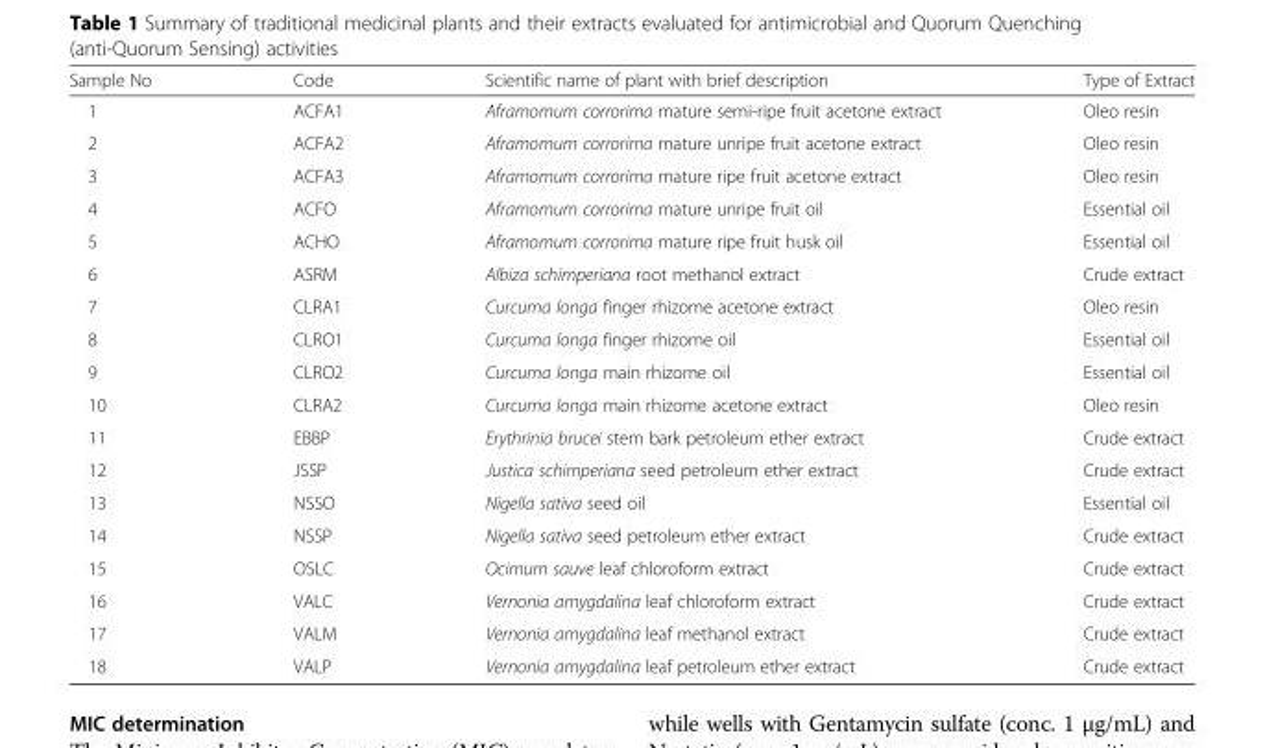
<table><thead><tr><td>Sample No</td><td>Code</td><td>Scientific name of plant with brief description</td><td>Type of Extract</td></tr></thead><tbody><tr><td>1</td><td>ACFA1</td><td>Aframomum corrorima mature semi-ripe fruit acetone extract</td><td>Oleo resin</td></tr><tr><td>2</td><td>ACFA2</td><td>Aframomum corrorima mature unripe fruit acetone extract</td><td>Oleo resin</td></tr><tr><td>3</td><td>ACFA3</td><td>Aframomum corrorima mature ripe fruit acetone extract</td><td>Oleo resin</td></tr><tr><td>4</td><td>ACFO</td><td>Aframomum corrorima mature unripe fruit oil</td><td>Essential oil</td></tr><tr><td>5</td><td>ACHO</td><td>Aframomum corrorima mature ripe fruit husk oil</td><td>Essential oil</td></tr><tr><td>6</td><td>ASRM</td><td>Albiza schimperiana root methanol extract</td><td>Crude extract</td></tr><tr><td>7</td><td>CLRA1</td><td>Curcuma longa finger rhizome acetone extract</td><td>Oleo resin</td></tr><tr><td>8</td><td>CLRO1</td><td>Curcuma longa finger rhizome oil</td><td>Essential oil</td></tr><tr><td>9</td><td>CLRO2</td><td>Curcuma longa main rhizome oil</td><td>Essential oil</td></tr><tr><td>10</td><td>CLRA2</td><td>Curcuma longa main rhizome acetone extract</td><td>Oleo resin</td></tr><tr><td>11</td><td>EBBP</td><td>Erythrinia brucei stem bark petroleum ether extract</td><td>Crude extract</td></tr><tr><td>12</td><td>JSSP</td><td>Justica schimperiana seed petroleum ether extract</td><td>Crude extract</td></tr><tr><td>13</td><td>NSSO</td><td>Nigella sativa seed oil</td><td>Essential oil</td></tr><tr><td>14</td><td>NSSP</td><td>Nigella sativa seed petroleum ether extract</td><td>Crude extract</td></tr><tr><td>15</td><td>OSLC</td><td>Ocimum sauve leaf chloroform extract</td><td>Crude extract</td></tr><tr><td>16</td><td>VALC</td><td>Vernonia amygdalina leaf chloroform extract</td><td>Crude extract</td></tr><tr><td>17</td><td>VALM</td><td>Vernonia amygdalina leaf methanol extract</td><td>Crude extract</td></tr><tr><td>18</td><td>VALP</td><td>Vernonia amygdalina leaf petroleum ether extract</td><td>Crude extract</td></tr></tbody></table>